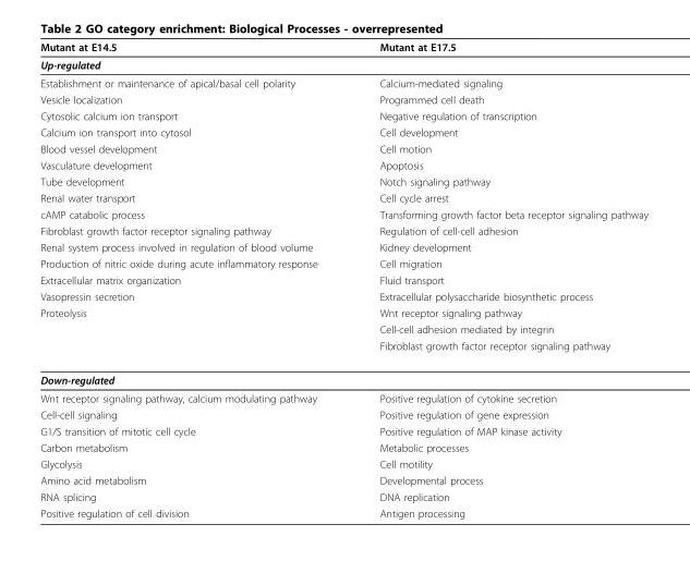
<table><thead><tr><td>Mutant at E14.5</td><td>Mutant at E17.5</td></tr></thead><tbody><tr><td colspan="2">Up-regulated</td></tr><tr><td>Establishment or maintenance of apical/basal cell polarity</td><td>Calcium-mediated signaling</td></tr><tr><td>Vesicle localization</td><td>Programmed cell death</td></tr><tr><td>Cytosolic calcium ion transport</td><td>Negative regulation of transcription</td></tr><tr><td>Calcium ion transport into cytosol</td><td>Cell development</td></tr><tr><td>Blood vessel development</td><td>Cell motion</td></tr><tr><td>Vasculature development</td><td>Apoptosis</td></tr><tr><td>Tube development</td><td>Notch signaling pathway</td></tr><tr><td>Renal water transport</td><td>Cell cycle arrest</td></tr><tr><td>cAMP catabolic process</td><td>Transforming growth factor beta receptor signaling pathway</td></tr><tr><td>Fibroblast growth factor receptor signaling pathway</td><td>Regulation of cell-cell adhesion</td></tr><tr><td>Renal system process involved in regulation of blood volume</td><td>Kidney development</td></tr><tr><td>Production of nitric oxide during acute inflammatory response</td><td>Cell migration</td></tr><tr><td>Extracellular matrix organization</td><td>Fluid transport</td></tr><tr><td>Vasopressin secretion</td><td>Extracellular polysaccharide biosynthetic process</td></tr><tr><td rowspan="3">Proteolysis</td><td>Wnt receptor signaling pathway</td></tr><tr><td>Cell-cell adhesion mediated by integrin</td></tr><tr><td>Fibroblast growth factor receptor signaling pathway</td></tr><tr><td colspan="2">Down-regulated</td></tr><tr><td>Wnt receptor signaling pathway, calcium modulating pathway</td><td>Positive regulation of cytokine secretion</td></tr><tr><td>Cell-cell signaling</td><td>Positive regulation of gene expression</td></tr><tr><td>G1/S transition of mitotic cell cycle</td><td>Positive regulation of MAP kinase activity</td></tr><tr><td>Carbon metabolism</td><td>Metabolic processes</td></tr><tr><td>Glycolysis</td><td>Cell motility</td></tr><tr><td>Amino acid metabolism</td><td>Developmental process</td></tr><tr><td>RNA splicing</td><td>DNA replication</td></tr><tr><td>Positive regulation of cell division</td><td>Antigen processing</td></tr></tbody></table>